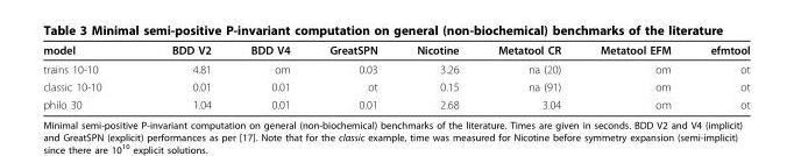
<table><thead><tr><td>model</td><td>BDD V2</td><td>BDD V4</td><td>GreatSPN</td><td>Nicotine</td><td>Metatool CR</td><td>Metatool EFM</td><td>efmtool</td></tr></thead><tbody><tr><td>trains 10-10</td><td>4.81</td><td>om</td><td>0.03</td><td>3.26</td><td>na (20)</td><td>om</td><td>ot</td></tr><tr><td>classic 10-10</td><td>0.01</td><td>0.01</td><td>ot</td><td>0.15</td><td>na (91)</td><td>om</td><td>ot</td></tr><tr><td>philo 30</td><td>1.04</td><td>0.01</td><td>0.01</td><td>2.68</td><td>3.04</td><td>om</td><td>ot</td></tr></tbody></table>